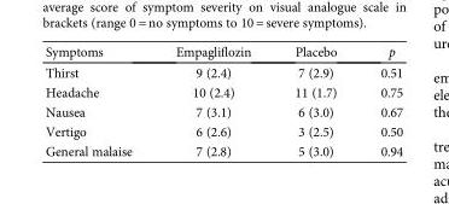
<table><thead><tr><td>Symptoms</td><td>Empagliflozin</td><td>Placebo</td><td>p</td></tr></thead><tbody><tr><td>Thirst</td><td>9 (2.4)</td><td>7 (2.9)</td><td>0.51</td></tr><tr><td>Headache</td><td>10 (2.4)</td><td>11 (1.7)</td><td>0.75</td></tr><tr><td>Nausea</td><td>7 (3.1)</td><td>6 (3.0)</td><td>0.67</td></tr><tr><td>Vertigo</td><td>6 (2.6)</td><td>3 (2.5)</td><td>0.50</td></tr><tr><td>General malaise</td><td>7 (2.8)</td><td>5 (3.0)</td><td>0.94</td></tr></tbody></table>